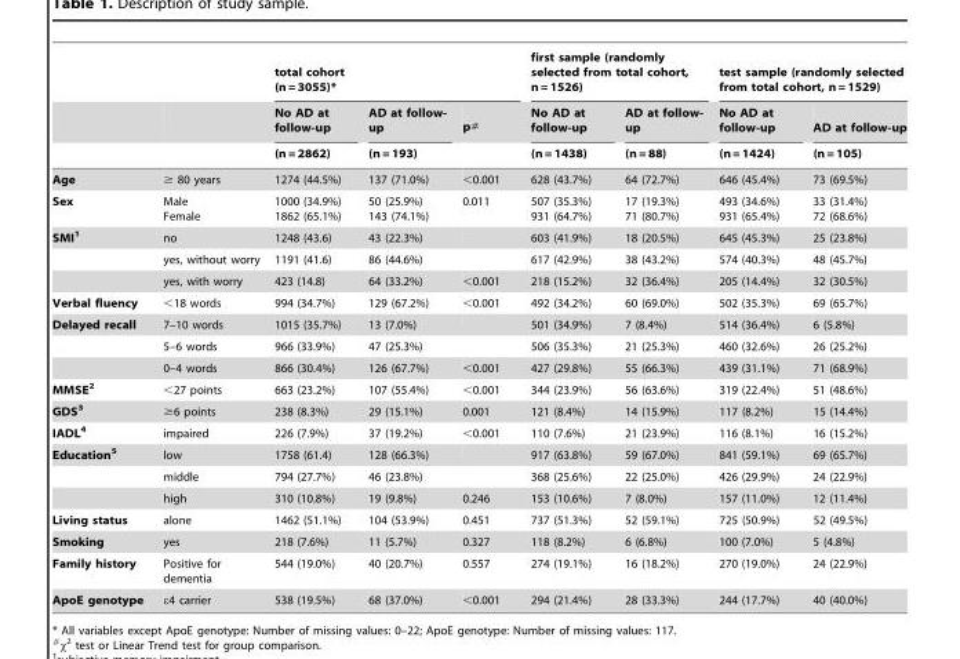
<table><thead><tr><td rowspan="3"></td><td rowspan="3"></td><td colspan="3">total cohort (n = 3055)*</td><td colspan="2">first sample (randomly selected from total cohort, n = 1526)</td><td colspan="2">test sample (randomly selected from total cohort, n = 1529)</td></tr><tr><td rowspan="2">No AD at follow-up (n = 2862)</td><td rowspan="2">AD at follow- up (n = 193)</td><td rowspan="2">p#</td><td rowspan="2">No AD at follow-up (n = 1438)</td><td rowspan="2">AD at follow- up (n = 88)</td><td rowspan="2">No AD at follow-up (n = 1424)</td><td rowspan="2">AD at follow-up (n = 105)</td></tr><tr></tr></thead><tbody><tr><td>Age</td><td>≥ 80 years</td><td>1274 (44.5%)</td><td>137 (71.0%)</td><td>&lt;0.001</td><td>628 (43.7%)</td><td>64 (72.7%)</td><td>646 (45.4%)</td><td>73 (69.5%)</td></tr><tr><td>Sex</td><td>Male Female</td><td>1000 (34.9%) 1862 (65.1%)</td><td>50 (25.9%) 143 (74.1%)</td><td>0.011</td><td>507 (35.3%) 931 (64.7%)</td><td>17 (19.3%) 71 (80.7%)</td><td>493 (34.6%) 931 (65.4%)</td><td>33 (31.4%) 72 (68.6%)</td></tr><tr><td rowspan="3">SMI1</td><td>no</td><td>1248 (43.6)</td><td>43 (22.3%)</td><td></td><td>603 (41.9%)</td><td>18 (20.5%)</td><td>645 (45.3%)</td><td>25 (23.8%)</td></tr><tr><td>yes, without worry</td><td>1191 (41.6)</td><td>86 (44.6%)</td><td></td><td>617 (42.9%)</td><td>38 (43.2%)</td><td>574 (40.3%)</td><td>48 (45.7%)</td></tr><tr><td>yes, with worry</td><td>423 (14.8)</td><td>64 (33.2%)</td><td>&lt;0.001</td><td>218 (15.2%)</td><td>32 (36.4%)</td><td>205 (14.4%)</td><td>32 (30.5%)</td></tr><tr><td>Verbal fluency</td><td>&lt;18 words</td><td>994 (34.7%)</td><td>129 (67.2%)</td><td>&lt;0.001</td><td>492 (34.2%)</td><td>60 (69.0%)</td><td>502 (35.3%)</td><td>69 (65.7%)</td></tr><tr><td rowspan="3">Delayed recall</td><td>7–10 words</td><td>1015 (35.7%)</td><td>13 (7.0%)</td><td></td><td>501 (34.9%)</td><td>7 (8.4%)</td><td>514 (36.4%)</td><td>6 (5.8%)</td></tr><tr><td>5–6 words</td><td>966 (33.9%)</td><td>47 (25.3%)</td><td></td><td>506 (35.3%)</td><td>21 (25.3%)</td><td>460 (32.6%)</td><td>26 (25.2%)</td></tr><tr><td>0–4 words</td><td>866 (30.4%)</td><td>126 (67.7%)</td><td>&lt;0.001</td><td>427 (29.8%)</td><td>55 (66.3%)</td><td>439 (31.1%)</td><td>71 (68.9%)</td></tr><tr><td>MMSE2</td><td>&lt;27 points</td><td>663 (23.2%)</td><td>107 (55.4%)</td><td>&lt;0.001</td><td>344 (23.9%)</td><td>56 (63.6%)</td><td>319 (22.4%)</td><td>51 (48.6%)</td></tr><tr><td>GDS3</td><td>≥6 points</td><td>238 (8.3%)</td><td>29 (15.1%)</td><td>0.001</td><td>121 (8.4%)</td><td>14 (15.9%)</td><td>117 (8.2%)</td><td>15 (14.4%)</td></tr><tr><td>IADL4</td><td>impaired</td><td>226 (7.9%)</td><td>37 (19.2%)</td><td>&lt;0.001</td><td>110 (7.6%)</td><td>21 (23.9%)</td><td>116 (8.1%)</td><td>16 (15.2%)</td></tr><tr><td rowspan="3">Education5</td><td>low</td><td>1758 (61.4)</td><td>128 (66.3%)</td><td></td><td>917 (63.8%)</td><td>59 (67.0%)</td><td>841 (59.1%)</td><td>69 (65.7%)</td></tr><tr><td>middle</td><td>794 (27.7%)</td><td>46 (23.8%)</td><td></td><td>368 (25.6%)</td><td>22 (25.0%)</td><td>426 (29.9%)</td><td>24 (22.9%)</td></tr><tr><td>high</td><td>310 (10.8%)</td><td>19 (9.8%)</td><td>0.246</td><td>153 (10.6%)</td><td>7 (8.0%)</td><td>157 (11.0%)</td><td>12 (11.4%)</td></tr><tr><td>Living status</td><td>alone</td><td>1462 (51.1%)</td><td>104 (53.9%)</td><td>0.451</td><td>737 (51.3%)</td><td>52 (59.1%)</td><td>725 (50.9%)</td><td>52 (49.5%)</td></tr><tr><td>Smoking</td><td>yes</td><td>218 (7.6%)</td><td>11 (5.7%)</td><td>0.327</td><td>118 (8.2%)</td><td>6 (6.8%)</td><td>100 (7.0%)</td><td>5 (4.8%)</td></tr><tr><td>Family history</td><td>Positive for dementia</td><td>544 (19.0%)</td><td>40 (20.7%)</td><td>0.557</td><td>274 (19.1%)</td><td>16 (18.2%)</td><td>270 (19.0%)</td><td>24 (22.9%)</td></tr><tr><td>ApoE genotype</td><td>ε4 carrier</td><td>538 (19.5%)</td><td>68 (37.0%)</td><td>&lt;0.001</td><td>294 (21.4%)</td><td>28 (33.3%)</td><td>244 (17.7%)</td><td>40 (40.0%)</td></tr></tbody></table>